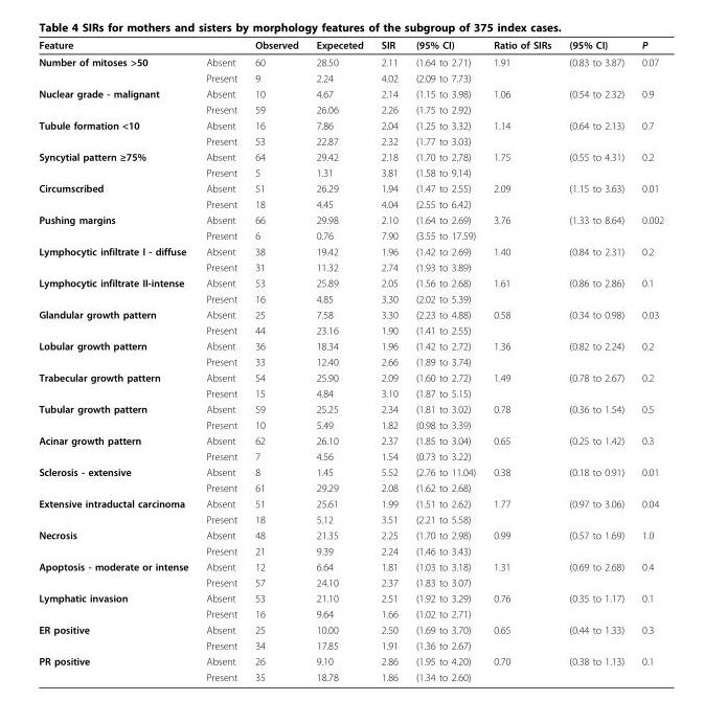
<table><thead><tr><td>Feature</td><td></td><td>Observed</td><td>Expeceted</td><td>SIR</td><td>(95% CI)</td><td>Ratio of SIRs</td><td>(95% CI)</td><td>P</td></tr></thead><tbody><tr><td rowspan="2">Number of mitoses &gt;50</td><td>Absent</td><td>60</td><td>28.50</td><td>2.11</td><td>(1.64 to 2.71)</td><td>1.91</td><td>(0.83 to 3.87)</td><td>0.07</td></tr><tr><td>Present</td><td>9</td><td>2.24</td><td>4.02</td><td>(2.09 to 7.73)</td><td></td><td></td><td></td></tr><tr><td rowspan="2">Nuclear grade - malignant</td><td>Absent</td><td>10</td><td>4.67</td><td>2.14</td><td>(1.15 to 3.98)</td><td>1.06</td><td>(0.54 to 2.32)</td><td>0.9</td></tr><tr><td>Present</td><td>59</td><td>26.06</td><td>2.26</td><td>(1.75 to 2.92)</td><td></td><td></td><td></td></tr><tr><td rowspan="2">Tubule formation &lt;10</td><td>Absent</td><td>16</td><td>7.86</td><td>2.04</td><td>(1.25 to 3.32)</td><td>1.14</td><td>(0.64 to 2.13)</td><td>0.7</td></tr><tr><td>Present</td><td>53</td><td>22.87</td><td>2.32</td><td>(1.77 to 3.03)</td><td></td><td></td><td></td></tr><tr><td rowspan="2">Syncytial pattern ≥75%</td><td>Absent</td><td>64</td><td>29.42</td><td>2.18</td><td>(1.70 to 2.78)</td><td>1.75</td><td>(0.55 to 4.31)</td><td>0.2</td></tr><tr><td>Present</td><td>5</td><td>1.31</td><td>3.81</td><td>(1.58 to 9.14)</td><td></td><td></td><td></td></tr><tr><td rowspan="2">Circumscribed</td><td>Absent</td><td>51</td><td>26.29</td><td>1.94</td><td>(1.47 to 2.55)</td><td>2.09</td><td>(1.15 to 3.63)</td><td>0.01</td></tr><tr><td>Present</td><td>18</td><td>4.45</td><td>4.04</td><td>(2.55 to 6.42)</td><td></td><td></td><td></td></tr><tr><td rowspan="2">Pushing margins</td><td>Absent</td><td>66</td><td>29.98</td><td>2.10</td><td>(1.64 to 2.69)</td><td>3.76</td><td>(1.33 to 8.64)</td><td>0.002</td></tr><tr><td>Present</td><td>6</td><td>0.76</td><td>7.90</td><td>(3.55 to 17.59)</td><td></td><td></td><td></td></tr><tr><td rowspan="2">Lymphocytic infiltrate I - diffuse</td><td>Absent</td><td>38</td><td>19.42</td><td>1.96</td><td>(1.42 to 2.69)</td><td>1.40</td><td>(0.84 to 2.31)</td><td>0.2</td></tr><tr><td>Present</td><td>31</td><td>11.32</td><td>2.74</td><td>(1.93 to 3.89)</td><td></td><td></td><td></td></tr><tr><td rowspan="2">Lymphocytic infiltrate II-intense</td><td>Absent</td><td>53</td><td>25.89</td><td>2.05</td><td>(1.56 to 2.68)</td><td>1.61</td><td>(0.86 to 2.86)</td><td>0.1</td></tr><tr><td>Present</td><td>16</td><td>4.85</td><td>3.30</td><td>(2.02 to 5.39)</td><td></td><td></td><td></td></tr><tr><td rowspan="2">Glandular growth pattern</td><td>Absent</td><td>25</td><td>7.58</td><td>3.30</td><td>(2.23 to 4.88)</td><td>0.58</td><td>(0.34 to 0.98)</td><td>0.03</td></tr><tr><td>Present</td><td>44</td><td>23.16</td><td>1.90</td><td>(1.41 to 2.55)</td><td></td><td></td><td></td></tr><tr><td rowspan="2">Lobular growth pattern</td><td>Absent</td><td>36</td><td>18.34</td><td>1.96</td><td>(1.42 to 2.72)</td><td>1.36</td><td>(0.82 to 2.24)</td><td>0.2</td></tr><tr><td>Present</td><td>33</td><td>12.40</td><td>2.66</td><td>(1.89 to 3.74)</td><td></td><td></td><td></td></tr><tr><td rowspan="2">Trabecular growth pattern</td><td>Absent</td><td>54</td><td>25.90</td><td>2.09</td><td>(1.60 to 2.72)</td><td>1.49</td><td>(0.78 to 2.67)</td><td>0.2</td></tr><tr><td>Present</td><td>15</td><td>4.84</td><td>3.10</td><td>(1.87 to 5.15)</td><td></td><td></td><td></td></tr><tr><td rowspan="2">Tubular growth pattern</td><td>Absent</td><td>59</td><td>25.25</td><td>2.34</td><td>(1.81 to 3.02)</td><td>0.78</td><td>(0.36 to 1.54)</td><td>0.5</td></tr><tr><td>Present</td><td>10</td><td>5.49</td><td>1.82</td><td>(0.98 to 3.39)</td><td></td><td></td><td></td></tr><tr><td rowspan="2">Acinar growth pattern</td><td>Absent</td><td>62</td><td>26.10</td><td>2.37</td><td>(1.85 to 3.04)</td><td>0.65</td><td>(0.25 to 1.42)</td><td>0.3</td></tr><tr><td>Present</td><td>7</td><td>4.56</td><td>1.54</td><td>(0.73 to 3.22)</td><td></td><td></td><td></td></tr><tr><td rowspan="2">Sclerosis - extensive</td><td>Absent</td><td>8</td><td>1.45</td><td>5.52</td><td>(2.76 to 11.04)</td><td>0.38</td><td>(0.18 to 0.91)</td><td>0.01</td></tr><tr><td>Present</td><td>61</td><td>29.29</td><td>2.08</td><td>(1.62 to 2.68)</td><td></td><td></td><td></td></tr><tr><td rowspan="2">Extensive intraductal carcinoma</td><td>Absent</td><td>51</td><td>25.61</td><td>1.99</td><td>(1.51 to 2.62)</td><td>1.77</td><td>(0.97 to 3.06)</td><td>0.04</td></tr><tr><td>Present</td><td>18</td><td>5.12</td><td>3.51</td><td>(2.21 to 5.58)</td><td></td><td></td><td></td></tr><tr><td rowspan="2">Necrosis</td><td>Absent</td><td>48</td><td>21.35</td><td>2.25</td><td>(1.70 to 2.98)</td><td>0.99</td><td>(0.57 to 1.69)</td><td>1.0</td></tr><tr><td>Present</td><td>21</td><td>9.39</td><td>2.24</td><td>(1.46 to 3.43)</td><td></td><td></td><td></td></tr><tr><td rowspan="2">Apoptosis - moderate or intense</td><td>Absent</td><td>12</td><td>6.64</td><td>1.81</td><td>(1.03 to 3.18)</td><td>1.31</td><td>(0.69 to 2.68)</td><td>0.4</td></tr><tr><td>Present</td><td>57</td><td>24.10</td><td>2.37</td><td>(1.83 to 3.07)</td><td></td><td></td><td></td></tr><tr><td rowspan="2">Lymphatic invasion</td><td>Absent</td><td>53</td><td>21.10</td><td>2.51</td><td>(1.92 to 3.29)</td><td>0.76</td><td>(0.35 to 1.17)</td><td>0.1</td></tr><tr><td>Present</td><td>16</td><td>9.64</td><td>1.66</td><td>(1.02 to 2.71)</td><td></td><td></td><td></td></tr><tr><td rowspan="2">ER positive</td><td>Absent</td><td>25</td><td>10.00</td><td>2.50</td><td>(1.69 to 3.70)</td><td>0.65</td><td>(0.44 to 1.33)</td><td>0.3</td></tr><tr><td>Present</td><td>34</td><td>17.85</td><td>1.91</td><td>(1.36 to 2.67)</td><td></td><td></td><td></td></tr><tr><td rowspan="2">PR positive</td><td>Absent</td><td>26</td><td>9.10</td><td>2.86</td><td>(1.95 to 4.20)</td><td>0.70</td><td>(0.38 to 1.13)</td><td>0.1</td></tr><tr><td>Present</td><td>35</td><td>18.78</td><td>1.86</td><td>(1.34 to 2.60)</td><td></td><td></td><td></td></tr></tbody></table>